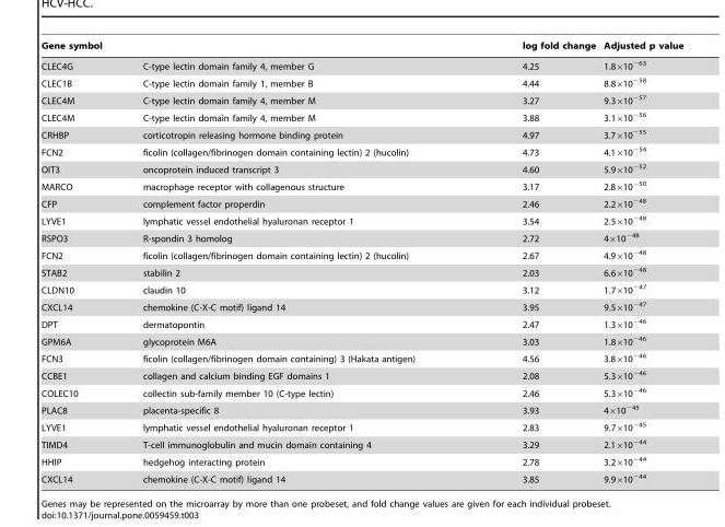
<table><thead><tr><td colspan="2">Gene symbol</td><td rowspan="2">log fold change 4.25</td><td rowspan="2">Adjusted p value 1.8×10<sup>−63</sup></td></tr><tr><td>CLEC4G</td><td>C-type lectin domain family 4, member G</td></tr></thead><tbody><tr><td>CLEC1B</td><td>C-type lectin domain family 1, member B</td><td>4.44</td><td>8.8×10<sup>−58</sup></td></tr><tr><td>CLEC4M</td><td>C-type lectin domain family 4, member M</td><td>3.27</td><td>9.3×10<sup>−57</sup></td></tr><tr><td>CLEC4M</td><td>C-type lectin domain family 4, member M</td><td>3.88</td><td>3.1×10<sup>−56</sup></td></tr><tr><td>CRHBP</td><td>corticotropin releasing hormone binding protein</td><td>4.97</td><td>3.7×10<sup>−55</sup></td></tr><tr><td>FCN2</td><td>ficolin (collagen/fibrinogen domain containing lectin) 2 (hucolin)</td><td>4.73</td><td>4.1×10<sup>−54</sup></td></tr><tr><td>OIT3</td><td>oncoprotein induced transcript 3</td><td>4.60</td><td>5.9×10<sup>−52</sup></td></tr><tr><td>MARCO</td><td>macrophage receptor with collagenous structure</td><td>3.17</td><td>2.8×10<sup>−50</sup></td></tr><tr><td>CFP</td><td>complement factor properdin</td><td>2.46</td><td>2.2×10<sup>−48</sup></td></tr><tr><td>LYVE1</td><td>lymphatic vessel endothelial hyaluronan receptor 1</td><td>3.54</td><td>2.5×10<sup>−48</sup></td></tr><tr><td>RSPO3</td><td>R-spondin 3 homolog</td><td>2.72</td><td>4×10<sup>−48</sup></td></tr><tr><td>FCN2</td><td>ficolin (collagen/fibrinogen domain containing lectin) 2 (hucolin)</td><td>2.67</td><td>4.9×10<sup>−48</sup></td></tr><tr><td>STAB2</td><td>stabilin 2</td><td>2.03</td><td>6.6×10<sup>−48</sup></td></tr><tr><td>CLDN10</td><td>claudin 10</td><td>3.12</td><td>1.7×10<sup>−47</sup></td></tr><tr><td>CXCL14</td><td>chemokine (C-X-C motif) ligand 14</td><td>3.95</td><td>9.5×10<sup>−47</sup></td></tr><tr><td>DPT</td><td>dermatopontin</td><td>2.47</td><td>1.3×10<sup>−46</sup></td></tr><tr><td>GPM6A</td><td>glycoprotein M6A</td><td>3.03</td><td>1.8×10<sup>−46</sup></td></tr><tr><td>FCN3</td><td>ficolin (collagen/fibrinogen domain containing) 3 (Hakata antigen)</td><td>4.56</td><td>3.8×10<sup>−46</sup></td></tr><tr><td>CCBE1</td><td>collagen and calcium binding EGF domains 1</td><td>2.08</td><td>5.3×10<sup>−46</sup></td></tr><tr><td>COLEC10</td><td>collectin sub-family member 10 (C-type lectin)</td><td>2.46</td><td>5.3×10<sup>−46</sup></td></tr><tr><td>PLAC8</td><td>placenta-specific 8</td><td>3.93</td><td>4×10<sup>−45</sup></td></tr><tr><td>LYVE1</td><td>lymphatic vessel endothelial hyaluronan receptor 1</td><td>2.83</td><td>9.7×10<sup>−45</sup></td></tr><tr><td>TIMD4</td><td>T-cell immunoglobulin and mucin domain containing 4</td><td>3.29</td><td>2.1×10<sup>−44</sup></td></tr><tr><td>HHIP</td><td>hedgehog interacting protein</td><td>2.78</td><td>3.2×10<sup>−44</sup></td></tr><tr><td>CXCL14</td><td>chemokine (C-X-C motif) ligand 14</td><td>3.85</td><td>9.9×10<sup>−44</sup></td></tr></tbody></table>